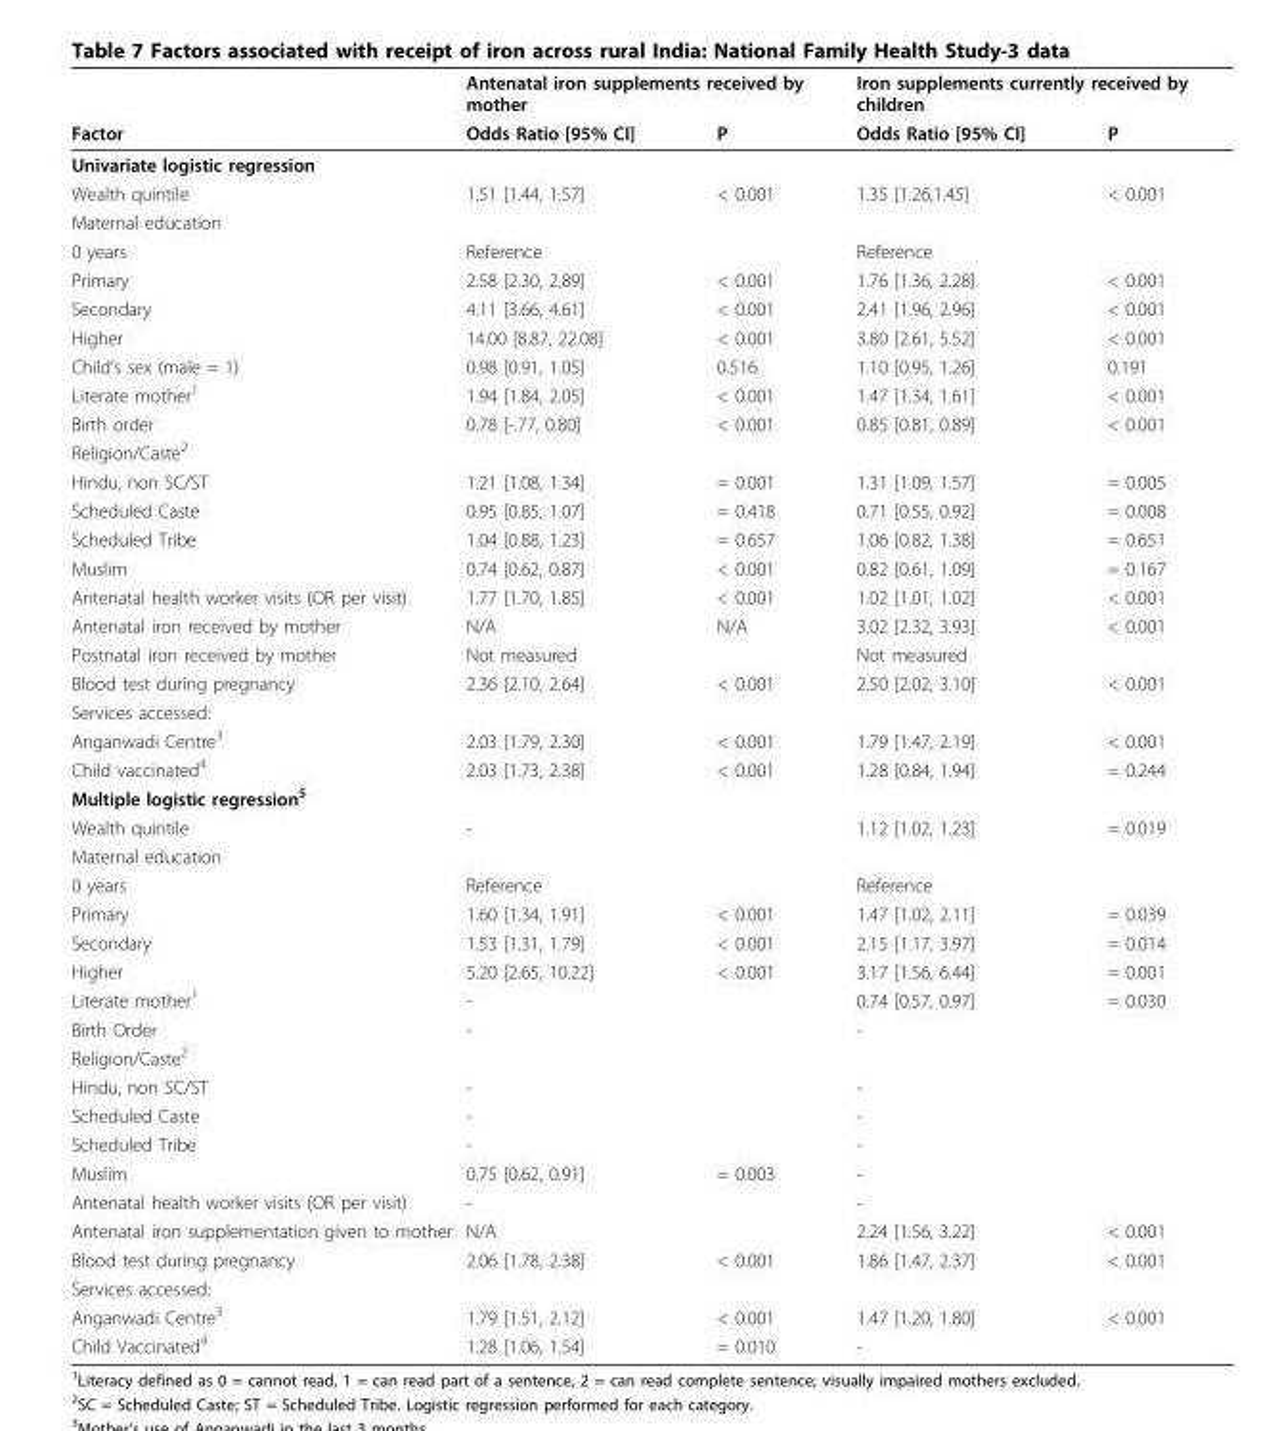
<table><thead><tr><td rowspan="2">Factor</td><td colspan="2">Antenatal iron supplements received by mother</td><td colspan="2">Iron supplements currently received by children</td></tr><tr><td>Odds Ratio [95% CI]</td><td>P</td><td>Odds Ratio [95% CI]</td><td>P</td></tr></thead><tbody><tr><td colspan="5">Univariate logistic regression</td></tr><tr><td>Wealth quintile</td><td>1.51 [1.44, 1.57]</td><td>&lt; 0.001</td><td>1.35 [1.26,1.45]</td><td>&lt; 0.001</td></tr><tr><td colspan="5">Maternal education</td></tr><tr><td>0 years</td><td>Reference</td><td></td><td>Reference</td><td></td></tr><tr><td>Primary</td><td>2.58 [2.30, 2.89]</td><td>&lt; 0.001</td><td>1.76 [1.36, 2.28]</td><td>&lt; 0.001</td></tr><tr><td>Secondary</td><td>4.11 [3.66, 4.61]</td><td>&lt; 0.001</td><td>2.41 [1.96, 2.96]</td><td>&lt; 0.001</td></tr><tr><td>Higher</td><td>14.00 [8.87, 22.08]</td><td>&lt; 0.001</td><td>3.80 [2.61, 5.52]</td><td>&lt; 0.001</td></tr><tr><td>Child’s sex (male = 1)</td><td>0.98 [0.91, 1.05]</td><td>0.516</td><td>1.10 [0.95, 1.26]</td><td>0.191</td></tr><tr><td>Literate mother<sup>1</sup></td><td>1.94 [1.84, 2.05]</td><td>&lt; 0.001</td><td>1.47 [1.34, 1.61]</td><td>&lt; 0.001</td></tr><tr><td>Birth order</td><td>0.78 [-.77, 0.80]</td><td>&lt; 0.001</td><td>0.85 [0.81, 0.89]</td><td>&lt; 0.001</td></tr><tr><td colspan="5">Religion/Caste<sup>2</sup></td></tr><tr><td>Hindu, non SC/ST</td><td>1.21 [1.08, 1.34]</td><td>= 0.001</td><td>1.31 [1.09, 1.57]</td><td>= 0.005</td></tr><tr><td>Scheduled Caste</td><td>0.95 [0.85, 1.07]</td><td>= 0.418</td><td>0.71 [0.55, 0.92]</td><td>= 0.008</td></tr><tr><td>Scheduled Tribe</td><td>1.04 [0.88, 1.23]</td><td>= 0.657</td><td>1.06 [0.82, 1.38]</td><td>= 0.651</td></tr><tr><td>Muslim</td><td>0.74 [0.62, 0.87]</td><td>&lt; 0.001</td><td>0.82 [0.61, 1.09]</td><td>= 0.167</td></tr><tr><td>Antenatal health worker visits (OR per visit)</td><td>1.77 [1.70, 1.85]</td><td>&lt; 0.001</td><td>1.02 [1.01, 1.02]</td><td>&lt; 0.001</td></tr><tr><td>Antenatal iron received by mother</td><td>N/A</td><td>N/A</td><td>3.02 [2.32, 3.93]</td><td>&lt; 0.001</td></tr><tr><td>Postnatal iron received by mother</td><td>Not measured</td><td></td><td>Not measured</td><td></td></tr><tr><td>Blood test during pregnancy</td><td>2.36 [2.10, 2.64]</td><td>&lt; 0.001</td><td>2.50 [2.02, 3.10]</td><td>&lt; 0.001</td></tr><tr><td colspan="5">Services accessed:</td></tr><tr><td>Anganwadi Centre<sup>3</sup></td><td>2.03 [1.79, 2.30]</td><td>&lt; 0.001</td><td>1.79 [1.47, 2.19]</td><td>&lt; 0.001</td></tr><tr><td>Child vaccinated<sup>4</sup></td><td>2.03 [1.73, 2.38]</td><td>&lt; 0.001</td><td>1.28 [0.84, 1.94]</td><td>= 0.244</td></tr><tr><td colspan="5">Multiple logistic regression<sup>5</sup></td></tr><tr><td>Wealth quintile</td><td>-</td><td></td><td>1.12 [1.02, 1.23]</td><td>= 0.019</td></tr><tr><td colspan="5">Maternal education</td></tr><tr><td>0 years</td><td>Reference</td><td></td><td>Reference</td><td></td></tr><tr><td>Primary</td><td>1.60 [1.34, 1.91]</td><td>&lt; 0.001</td><td>1.47 [1.02, 2.11]</td><td>= 0.039</td></tr><tr><td>Secondary</td><td>1.53 [1.31, 1.79]</td><td>&lt; 0.001</td><td>2.15 [1.17, 3.97]</td><td>= 0.014</td></tr><tr><td>Higher</td><td>5.20 [2.65, 10.22]</td><td>&lt; 0.001</td><td>3.17 [1.56, 6.44]</td><td>= 0.001</td></tr><tr><td>Literate mother<sup>1</sup></td><td>-</td><td></td><td>0.74 [0.57, 0.97]</td><td>= 0.030</td></tr><tr><td>Birth Order</td><td>-</td><td></td><td>-</td><td></td></tr><tr><td colspan="5">Religion/Caste<sup>2</sup></td></tr><tr><td>Hindu, non SC/ST</td><td>-</td><td></td><td>-</td><td></td></tr><tr><td>Scheduled Caste</td><td>-</td><td></td><td>-</td><td></td></tr><tr><td>Scheduled Tribe</td><td>-</td><td></td><td>-</td><td></td></tr><tr><td>Muslim</td><td>0.75 [0.62, 0.91]</td><td>= 0.003</td><td>-</td><td></td></tr><tr><td>Antenatal health worker visits (OR per visit)</td><td>-</td><td></td><td>-</td><td></td></tr><tr><td>Antenatal iron supplementation given to mother</td><td>N/A</td><td></td><td>2.24 [1.56, 3.22]</td><td>&lt; 0.001</td></tr><tr><td>Blood test during pregnancy</td><td>2.06 [1.78, 2.38]</td><td>&lt; 0.001</td><td>1.86 [1.47, 2.37]</td><td>&lt; 0.001</td></tr><tr><td colspan="5">Services accessed:</td></tr><tr><td>Anganwadi Centre<sup>3</sup></td><td>1.79 [1.51, 2.12]</td><td>&lt; 0.001</td><td>1.47 [1.20, 1.80]</td><td>&lt; 0.001</td></tr><tr><td>Child Vaccinated<sup>4</sup></td><td>1.28 [1.06, 1.54]</td><td>= 0.010</td><td>-</td><td></td></tr></tbody></table>